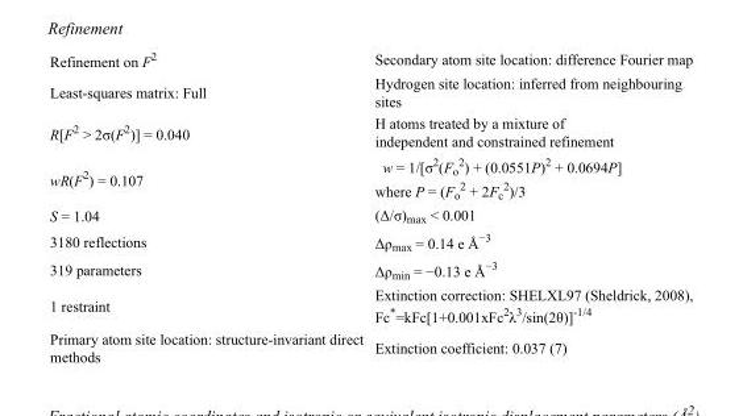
<table><tbody><tr><td>Refinement on F<sup>2</sup></td><td>Secondary atom site location: difference Fourier map</td></tr><tr><td>Least-squares matrix: Full</td><td>Hydrogen site location: inferred from neighbouring sites</td></tr><tr><td>R[F<sup>2</sup> &gt; 2σ(F<sup>2</sup>)] = 0.040</td><td>H atoms treated by a mixture of independent and constrained refinement</td></tr><tr><td>wR(F<sup>2</sup>) = 0.107</td><td>w = 1/[σ<sup>2</sup>(F<sub>o</sub> <sup>2</sup>) + (0.0551P)<sup>2</sup> + 0.0694P] where P = (F<sub>o</sub> <sup>2</sup> + 2F<sub>c</sub> <sup>2</sup>)/3</td></tr><tr><td>S = 1.04</td><td>(Δ/σ)<sub>max</sub> &lt; 0.001</td></tr><tr><td>3180 reflections</td><td>Δρ<sub>max</sub> = 0.14 e Å<sup>−3</sup></td></tr><tr><td>319 parameters</td><td>Δρ<sub>min</sub> = −0.13 e Å<sup>−3</sup></td></tr><tr><td>1 restraint</td><td>Extinction correction: SHELXL97 (Sheldrick, 2008), Fc*=kFc[1+0.001xFc<sup>2</sup>λ<sup>3</sup>/sin(2θ)]<sup>-1/4</sup></td></tr><tr><td>Primary atom site location: structure-invariant direct methods</td><td>Extinction coefficient: 0.037 (7)</td></tr></tbody></table>